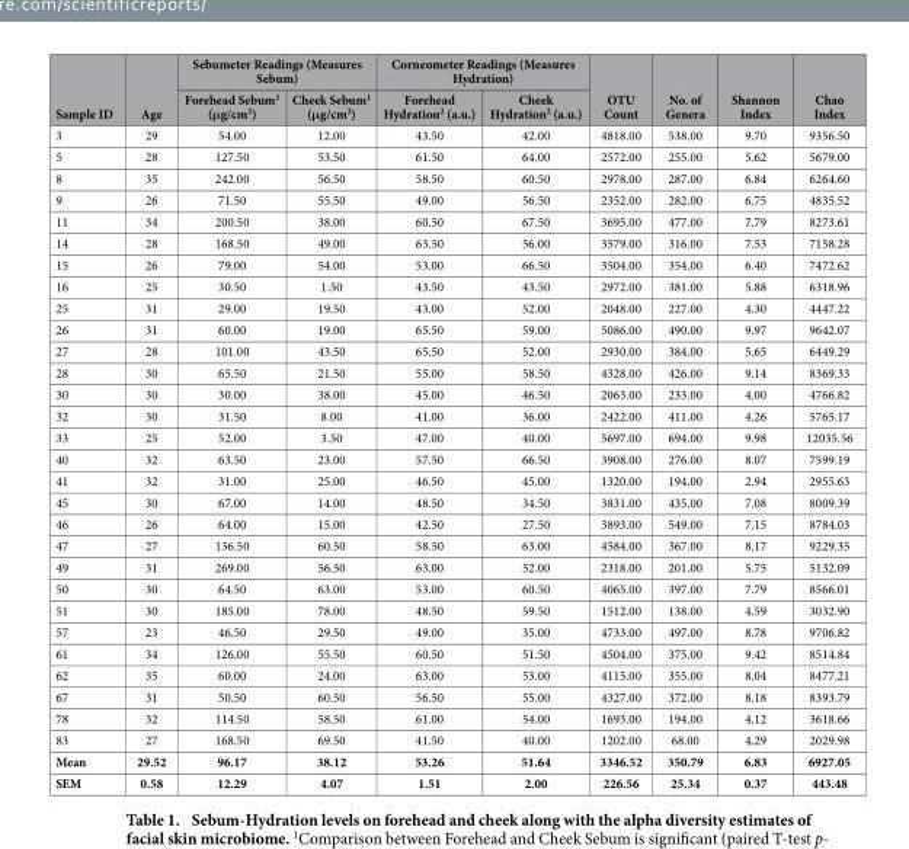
<table><thead><tr><td rowspan="2">Sample ID</td><td rowspan="2">Age</td><td colspan="2">Sebumeter Readings (Measures Sebum)</td><td colspan="2">Corneometer Readings (Measures Hydration)</td><td rowspan="2">OTU Count</td><td rowspan="2">No. of Genera</td><td rowspan="2">Shannon Index</td><td rowspan="2">Chao Index</td></tr><tr><td>Forehead Sebum<sup>1</sup> (μg/cm<sup>2</sup>)</td><td>Cheek Sebum<sup>1</sup> (μg/cm<sup>2</sup>)</td><td>Forehead Hydration<sup>2</sup> (a.u.)</td><td>Cheek Hydration<sup>2</sup> (a.u.)</td></tr></thead><tbody><tr><td>3</td><td>29</td><td>54.00</td><td>12.00</td><td>43.50</td><td>42.00</td><td>4818.00</td><td>538.00</td><td>9.70</td><td>9356.50</td></tr><tr><td>5</td><td>28</td><td>127.50</td><td>53.50</td><td>61.50</td><td>64.00</td><td>2572.00</td><td>255.00</td><td>5.62</td><td>5679.00</td></tr><tr><td>8</td><td>35</td><td>242.00</td><td>56.50</td><td>58.50</td><td>60.50</td><td>2978.00</td><td>287.00</td><td>6.84</td><td>6264.60</td></tr><tr><td>9</td><td>26</td><td>71.50</td><td>55.50</td><td>49.00</td><td>56.50</td><td>2352.00</td><td>282.00</td><td>6.75</td><td>4835.52</td></tr><tr><td>11</td><td>34</td><td>200.50</td><td>38.00</td><td>60.50</td><td>67.50</td><td>3695.00</td><td>477.00</td><td>7.79</td><td>8273.61</td></tr><tr><td>14</td><td>28</td><td>168.50</td><td>49.00</td><td>63.50</td><td>56.00</td><td>3579.00</td><td>316.00</td><td>7.53</td><td>7158.28</td></tr><tr><td>15</td><td>26</td><td>79.00</td><td>54.00</td><td>53.00</td><td>66.50</td><td>3504.00</td><td>354.00</td><td>6.40</td><td>7472.62</td></tr><tr><td>16</td><td>25</td><td>30.50</td><td>1.50</td><td>43.50</td><td>43.50</td><td>2972.00</td><td>381.00</td><td>5.88</td><td>6318.96</td></tr><tr><td>25</td><td>31</td><td>29.00</td><td>19.50</td><td>43.00</td><td>52.00</td><td>2048.00</td><td>227.00</td><td>4.30</td><td>4447.22</td></tr><tr><td>26</td><td>31</td><td>60.00</td><td>19.00</td><td>65.50</td><td>59.00</td><td>5086.00</td><td>490.00</td><td>9.97</td><td>9642.07</td></tr><tr><td>27</td><td>28</td><td>101.00</td><td>43.50</td><td>65.50</td><td>52.00</td><td>2930.00</td><td>384.00</td><td>5.65</td><td>6449.29</td></tr><tr><td>28</td><td>30</td><td>65.50</td><td>21.50</td><td>55.00</td><td>58.50</td><td>4328.00</td><td>426.00</td><td>9.14</td><td>8369.33</td></tr><tr><td>30</td><td>30</td><td>30.00</td><td>38.00</td><td>45.00</td><td>46.50</td><td>2063.00</td><td>233.00</td><td>4.00</td><td>4766.82</td></tr><tr><td>32</td><td>30</td><td>31.50</td><td>8.00</td><td>41.00</td><td>36.00</td><td>2422.00</td><td>411.00</td><td>4.26</td><td>5765.17</td></tr><tr><td>33</td><td>25</td><td>52.00</td><td>3.50</td><td>47.00</td><td>40.00</td><td>5697.00</td><td>694.00</td><td>9.98</td><td>12035.56</td></tr><tr><td>40</td><td>32</td><td>63.50</td><td>23.00</td><td>57.50</td><td>66.50</td><td>3908.00</td><td>276.00</td><td>8.07</td><td>7599.19</td></tr><tr><td>41</td><td>32</td><td>31.00</td><td>25.00</td><td>46.50</td><td>45.00</td><td>1320.00</td><td>194.00</td><td>2.94</td><td>2955.63</td></tr><tr><td>45</td><td>30</td><td>67.00</td><td>14.00</td><td>48.50</td><td>34.50</td><td>3831.00</td><td>435.00</td><td>7.08</td><td>8009.39</td></tr><tr><td>46</td><td>26</td><td>64.00</td><td>15.00</td><td>42.50</td><td>27.50</td><td>3893.00</td><td>549.00</td><td>7.15</td><td>8784.03</td></tr><tr><td>47</td><td>27</td><td>136.50</td><td>60.50</td><td>58.50</td><td>63.00</td><td>4584.00</td><td>367.00</td><td>8.17</td><td>9229.35</td></tr><tr><td>49</td><td>31</td><td>269.00</td><td>56.50</td><td>63.00</td><td>52.00</td><td>2318.00</td><td>201.00</td><td>5.75</td><td>5132.09</td></tr><tr><td>50</td><td>30</td><td>64.50</td><td>63.00</td><td>53.00</td><td>60.50</td><td>4065.00</td><td>397.00</td><td>7.79</td><td>8566.01</td></tr><tr><td>51</td><td>30</td><td>185.00</td><td>78.00</td><td>48.50</td><td>59.50</td><td>1512.00</td><td>138.00</td><td>4.59</td><td>3032.90</td></tr><tr><td>57</td><td>23</td><td>46.50</td><td>29.50</td><td>49.00</td><td>35.00</td><td>4733.00</td><td>497.00</td><td>8.78</td><td>9706.82</td></tr><tr><td>61</td><td>34</td><td>126.00</td><td>55.50</td><td>60.50</td><td>51.50</td><td>4504.00</td><td>375.00</td><td>9.42</td><td>8514.84</td></tr><tr><td>62</td><td>35</td><td>60.00</td><td>24.00</td><td>63.00</td><td>53.00</td><td>4115.00</td><td>355.00</td><td>8.04</td><td>8477.21</td></tr><tr><td>67</td><td>31</td><td>50.50</td><td>60.50</td><td>56.50</td><td>55.00</td><td>4327.00</td><td>372.00</td><td>8.18</td><td>8393.79</td></tr><tr><td>78</td><td>32</td><td>114.50</td><td>58.50</td><td>61.00</td><td>54.00</td><td>1693.00</td><td>194.00</td><td>4.12</td><td>3618.66</td></tr><tr><td>83</td><td>27</td><td>168.50</td><td>69.50</td><td>41.50</td><td>40.00</td><td>1202.00</td><td>68.00</td><td>4.29</td><td>2029.98</td></tr><tr><td>Mean</td><td>29.52</td><td>96.17</td><td>38.12</td><td>53.26</td><td>51.64</td><td>3346.52</td><td>350.79</td><td>6.83</td><td>6927.05</td></tr><tr><td>SEM</td><td>0.58</td><td>12.29</td><td>4.07</td><td>1.51</td><td>2.00</td><td>226.56</td><td>25.34</td><td>0.37</td><td>443.48</td></tr></tbody></table>